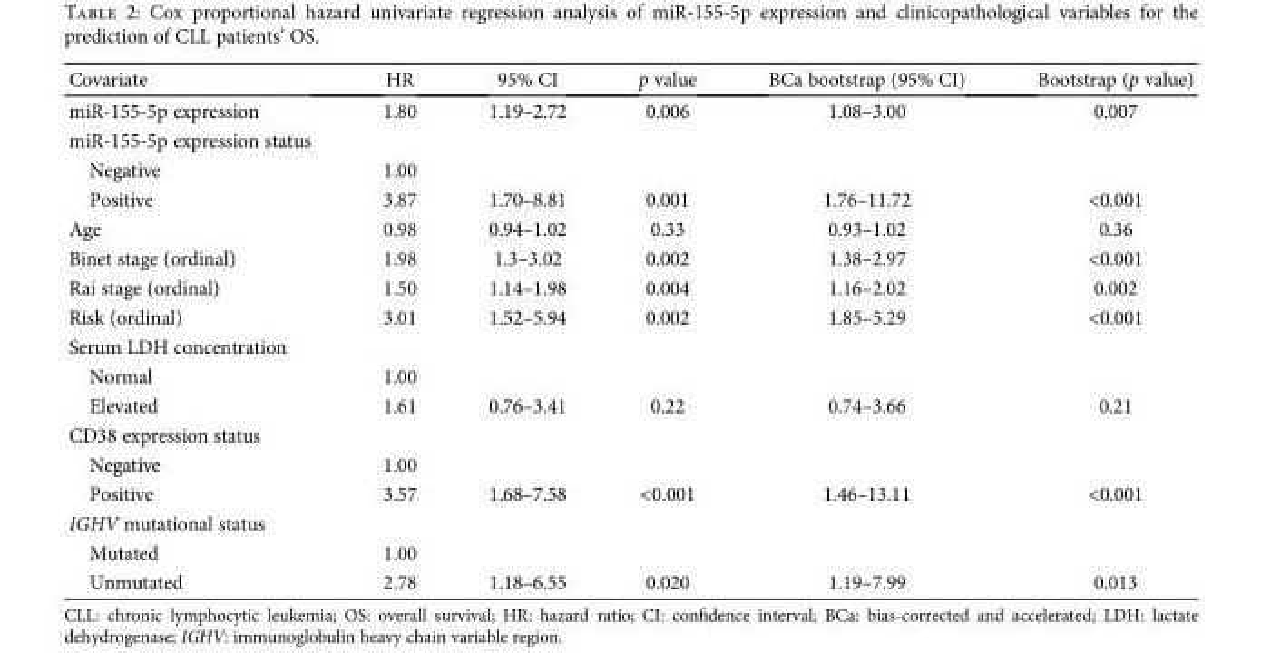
<table><thead><tr><td>Covariate</td><td>HR</td><td>95% CI</td><td>p value</td><td>BCa bootstrap (95% CI)</td><td>Bootstrap (p value)</td></tr></thead><tbody><tr><td>miR-155-5p expression</td><td>1.80</td><td>1.19–2.72</td><td>0.006</td><td>1.08–3.00</td><td>0.007</td></tr><tr><td colspan="6">miR-155-5p expression status</td></tr><tr><td>Negative</td><td>1.00</td><td></td><td></td><td></td><td></td></tr><tr><td>Positive</td><td>3.87</td><td>1.70–8.81</td><td>0.001</td><td>1.76–11.72</td><td>&lt;0.001</td></tr><tr><td>Age</td><td>0.98</td><td>0.94–1.02</td><td>0.33</td><td>0.93–1.02</td><td>0.36</td></tr><tr><td>Binet stage (ordinal)</td><td>1.98</td><td>1.3–3.02</td><td>0.002</td><td>1.38–2.97</td><td>&lt;0.001</td></tr><tr><td>Rai stage (ordinal)</td><td>1.50</td><td>1.14–1.98</td><td>0.004</td><td>1.16–2.02</td><td>0.002</td></tr><tr><td>Risk (ordinal)</td><td>3.01</td><td>1.52–5.94</td><td>0.002</td><td>1.85–5.29</td><td>&lt;0.001</td></tr><tr><td colspan="6">Serum LDH concentration</td></tr><tr><td>Normal</td><td>1.00</td><td></td><td></td><td></td><td></td></tr><tr><td>Elevated</td><td>1.61</td><td>0.76–3.41</td><td>0.22</td><td>0.74–3.66</td><td>0.21</td></tr><tr><td colspan="6">CD38 expression status</td></tr><tr><td>Negative</td><td>1.00</td><td></td><td></td><td></td><td></td></tr><tr><td>Positive</td><td>3.57</td><td>1.68–7.58</td><td>&lt;0.001</td><td>1.46–13.11</td><td>&lt;0.001</td></tr><tr><td colspan="6">IGHV mutational status</td></tr><tr><td>Mutated</td><td>1.00</td><td></td><td></td><td></td><td></td></tr><tr><td>Unmutated</td><td>2.78</td><td>1.18–6.55</td><td>0.020</td><td>1.19–7.99</td><td>0.013</td></tr></tbody></table>